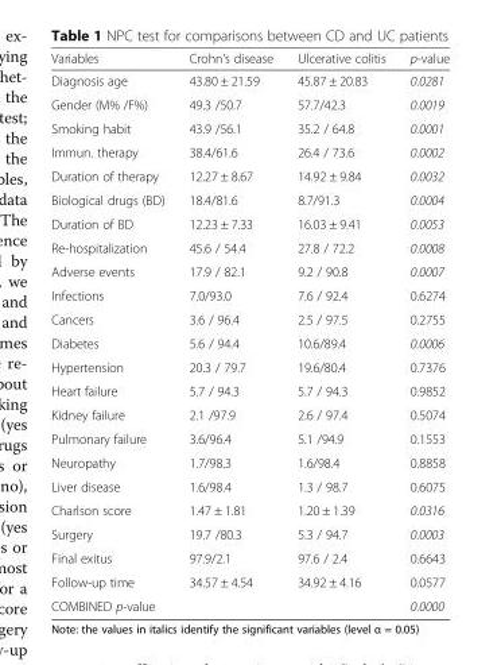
<table><thead><tr><td>Variables</td><td>Crohn’s disease</td><td>Ulcerative colitis</td><td>p-value</td></tr></thead><tbody><tr><td>Diagnosis age</td><td>43.80 ± 21.59</td><td>45.87 ± 20.83</td><td>0.0281</td></tr><tr><td>Gender (M% /F%)</td><td>49.3 /50.7</td><td>57.7/42.3</td><td>0.0019</td></tr><tr><td>Smoking habit</td><td>43.9 /56.1</td><td>35.2 / 64.8</td><td>0.0001</td></tr><tr><td>Immun. therapy</td><td>38.4/61.6</td><td>26.4 / 73.6</td><td>0.0002</td></tr><tr><td>Duration of therapy</td><td>12.27 ± 8.67</td><td>14.92 ± 9.84</td><td>0.0032</td></tr><tr><td>Biological drugs (BD)</td><td>18.4/81.6</td><td>8.7/91.3</td><td>0.0004</td></tr><tr><td>Duration of BD</td><td>12.23 ± 7.33</td><td>16.03 ± 9.41</td><td>0.0053</td></tr><tr><td>Re-hospitalization</td><td>45.6 / 54.4</td><td>27.8 / 72.2</td><td>0.0008</td></tr><tr><td>Adverse events</td><td>17.9 / 82.1</td><td>9.2 / 90.8</td><td>0.0007</td></tr><tr><td>Infections</td><td>7.0/93.0</td><td>7.6 / 92.4</td><td>0.6274</td></tr><tr><td>Cancers</td><td>3.6 / 96.4</td><td>2.5 / 97.5</td><td>0.2755</td></tr><tr><td>Diabetes</td><td>5.6 / 94.4</td><td>10.6/89.4</td><td>0.0006</td></tr><tr><td>Hypertension</td><td>20.3 / 79.7</td><td>19.6/80.4</td><td>0.7376</td></tr><tr><td>Heart failure</td><td>5.7 / 94.3</td><td>5.7 / 94.3</td><td>0.9852</td></tr><tr><td>Kidney failure</td><td>2.1 /97.9</td><td>2.6 / 97.4</td><td>0.5074</td></tr><tr><td>Pulmonary failure</td><td>3.6/96.4</td><td>5.1 /94.9</td><td>0.1553</td></tr><tr><td>Neuropathy</td><td>1.7/98.3</td><td>1.6/98.4</td><td>0.8858</td></tr><tr><td>Liver disease</td><td>1.6/98.4</td><td>1.3 / 98.7</td><td>0.6075</td></tr><tr><td>Charlson score</td><td>1.47 ± 1.81</td><td>1.20 ± 1.39</td><td>0.0316</td></tr><tr><td>Surgery</td><td>19.7 /80.3</td><td>5.3 / 94.7</td><td>0.0003</td></tr><tr><td>Final exitus</td><td>97.9/2.1</td><td>97.6 / 2.4</td><td>0.6643</td></tr><tr><td>Follow-up time</td><td>34.57 ± 4.54</td><td>34.92 ± 4.16</td><td>0.0577</td></tr><tr><td>COMBINED p-value</td><td></td><td></td><td>0.0000</td></tr></tbody></table>